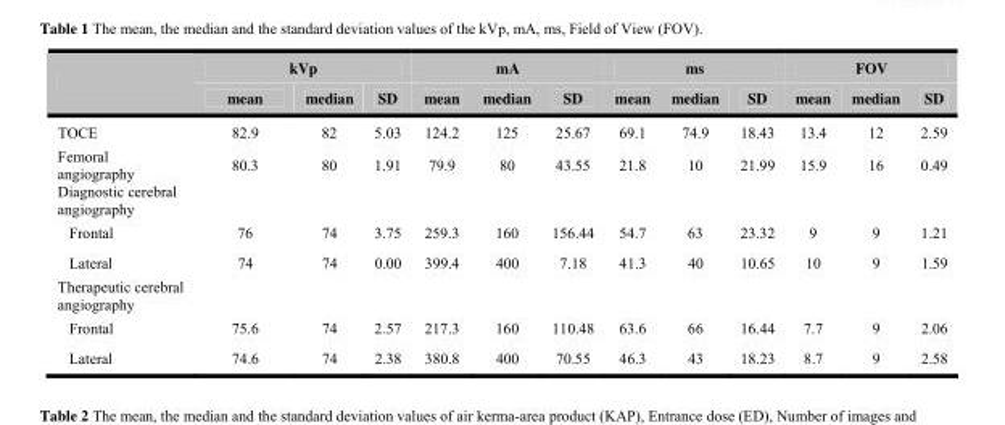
<table><thead><tr><td rowspan="2"></td><td colspan="3">kVp</td><td colspan="3">mA</td><td colspan="3">ms</td><td colspan="3">FOV</td></tr><tr><td>mean</td><td>median</td><td>SD</td><td>mean</td><td>median</td><td>SD</td><td>mean</td><td>median</td><td>SD</td><td>mean</td><td>median</td><td>SD</td></tr></thead><tbody><tr><td>TOCE</td><td>82.9</td><td>82</td><td>5.03</td><td>124.2</td><td>125</td><td>25.67</td><td>69.1</td><td>74.9</td><td>18.43</td><td>13.4</td><td>12</td><td>2.59</td></tr><tr><td>Femoral angiography</td><td>80.3</td><td>80</td><td>1.91</td><td>79.9</td><td>80</td><td>43.55</td><td>21.8</td><td>10</td><td>21.99</td><td>15.9</td><td>16</td><td>0.49</td></tr><tr><td colspan="13">Diagnostic cerebral angiography</td></tr><tr><td>Frontal</td><td>76</td><td>74</td><td>3.75</td><td>259.3</td><td>160</td><td>156.44</td><td>54.7</td><td>63</td><td>23.32</td><td>9</td><td>9</td><td>1.21</td></tr><tr><td>Lateral</td><td>74</td><td>74</td><td>0.00</td><td>399.4</td><td>400</td><td>7.18</td><td>41.3</td><td>40</td><td>10.65</td><td>10</td><td>9</td><td>1.59</td></tr><tr><td colspan="13">Therapeutic cerebral angiography</td></tr><tr><td>Frontal</td><td>75.6</td><td>74</td><td>2.57</td><td>217.3</td><td>160</td><td>110.48</td><td>63.6</td><td>66</td><td>16.44</td><td>7.7</td><td>9</td><td>2.06</td></tr><tr><td>Lateral</td><td>74.6</td><td>74</td><td>2.38</td><td>380.8</td><td>400</td><td>70.55</td><td>46.3</td><td>43</td><td>18.23</td><td>8.7</td><td>9</td><td>2.58</td></tr></tbody></table>